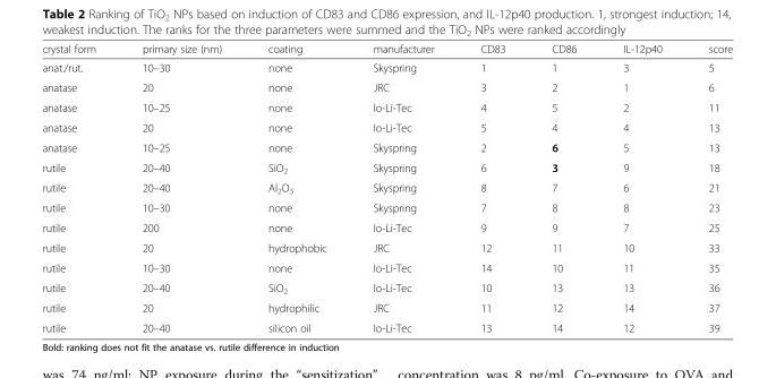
<table><thead><tr><td>crystal form</td><td>primary size (nm)</td><td>coating</td><td>manufacturer</td><td>CD83</td><td>CD86</td><td>IL-12p40</td><td>score</td></tr></thead><tbody><tr><td>anat./rut.</td><td>10–30</td><td>none</td><td>Skyspring</td><td>1</td><td>1</td><td>3</td><td>5</td></tr><tr><td>anatase</td><td>20</td><td>none</td><td>JRC</td><td>3</td><td>2</td><td>1</td><td>6</td></tr><tr><td>anatase</td><td>10–25</td><td>none</td><td>Io-Li-Tec</td><td>4</td><td>5</td><td>2</td><td>11</td></tr><tr><td>anatase</td><td>20</td><td>none</td><td>Io-Li-Tec</td><td>5</td><td>4</td><td>4</td><td>13</td></tr><tr><td>anatase</td><td>10–25</td><td>none</td><td>Skyspring</td><td>2</td><td>6</td><td>5</td><td>13</td></tr><tr><td>rutile</td><td>20–40</td><td>SiO<sub>2</sub></td><td>Skyspring</td><td>6</td><td>3</td><td>9</td><td>18</td></tr><tr><td>rutile</td><td>20–40</td><td>Al<sub>2</sub>O<sub>3</sub></td><td>Skyspring</td><td>8</td><td>7</td><td>6</td><td>21</td></tr><tr><td>rutile</td><td>10–30</td><td>none</td><td>Skyspring</td><td>7</td><td>8</td><td>8</td><td>23</td></tr><tr><td>rutile</td><td>200</td><td>none</td><td>Io-Li-Tec</td><td>9</td><td>9</td><td>7</td><td>25</td></tr><tr><td>rutile</td><td>20</td><td>hydrophobic</td><td>JRC</td><td>12</td><td>11</td><td>10</td><td>33</td></tr><tr><td>rutile</td><td>10–30</td><td>none</td><td>Io-Li-Tec</td><td>14</td><td>10</td><td>11</td><td>35</td></tr><tr><td>rutile</td><td>20–40</td><td>SiO<sub>2</sub></td><td>Io-Li-Tec</td><td>10</td><td>13</td><td>13</td><td>36</td></tr><tr><td>rutile</td><td>20</td><td>hydrophilic</td><td>JRC</td><td>11</td><td>12</td><td>14</td><td>37</td></tr><tr><td>rutile</td><td>20–40</td><td>silicon oil</td><td>Io-Li-Tec</td><td>13</td><td>14</td><td>12</td><td>39</td></tr></tbody></table>